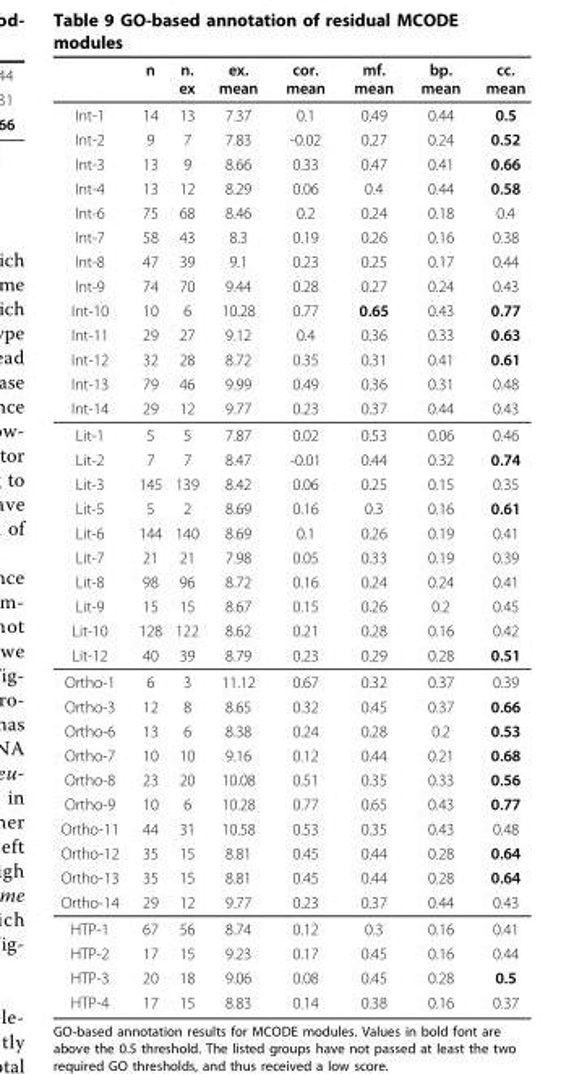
<table><thead><tr><td></td><td>n</td><td>n. ex</td><td>ex. mean</td><td>cor. mean</td><td>mf. mean</td><td>bp. mean</td><td>cc. mean</td></tr></thead><tbody><tr><td>Int-1</td><td>14</td><td>13</td><td>7.37</td><td>0.1</td><td>0.49</td><td>0.44</td><td>0.5</td></tr><tr><td>Int-2</td><td>9</td><td>7</td><td>7.83</td><td>-0.02</td><td>0.27</td><td>0.24</td><td>0.52</td></tr><tr><td>Int-3</td><td>13</td><td>9</td><td>8.66</td><td>0.33</td><td>0.47</td><td>0.41</td><td>0.66</td></tr><tr><td>Int-4</td><td>13</td><td>12</td><td>8.29</td><td>0.06</td><td>0.4</td><td>0.44</td><td>0.58</td></tr><tr><td>Int-6</td><td>75</td><td>68</td><td>8.46</td><td>0.2</td><td>0.24</td><td>0.18</td><td>0.4</td></tr><tr><td>Int-7</td><td>58</td><td>43</td><td>8.3</td><td>0.19</td><td>0.26</td><td>0.16</td><td>0.38</td></tr><tr><td>Int-8</td><td>47</td><td>39</td><td>9.1</td><td>0.23</td><td>0.25</td><td>0.17</td><td>0.44</td></tr><tr><td>Int-9</td><td>74</td><td>70</td><td>9.44</td><td>0.28</td><td>0.27</td><td>0.24</td><td>0.43</td></tr><tr><td>Int-10</td><td>10</td><td>6</td><td>10.28</td><td>0.77</td><td>0.65</td><td>0.43</td><td>0.77</td></tr><tr><td>Int-11</td><td>29</td><td>27</td><td>9.12</td><td>0.4</td><td>0.36</td><td>0.33</td><td>0.63</td></tr><tr><td>Int-12</td><td>32</td><td>28</td><td>8.72</td><td>0.35</td><td>0.31</td><td>0.41</td><td>0.61</td></tr><tr><td>Int-13</td><td>79</td><td>46</td><td>9.99</td><td>0.49</td><td>0.36</td><td>0.31</td><td>0.48</td></tr><tr><td>Int-14</td><td>29</td><td>12</td><td>9.77</td><td>0.23</td><td>0.37</td><td>0.44</td><td>0.43</td></tr><tr><td>Lit-1</td><td>5</td><td>5</td><td>7.87</td><td>0.02</td><td>0.53</td><td>0.06</td><td>0.46</td></tr><tr><td>Lit-2</td><td>7</td><td>7</td><td>8.47</td><td>-0.01</td><td>0.44</td><td>0.32</td><td>0.74</td></tr><tr><td>Lit-3</td><td>145</td><td>139</td><td>8.42</td><td>0.06</td><td>0.25</td><td>0.15</td><td>0.35</td></tr><tr><td>Lit-5</td><td>5</td><td>2</td><td>8.69</td><td>0.16</td><td>0.3</td><td>0.16</td><td>0.61</td></tr><tr><td>Lit-6</td><td>144</td><td>140</td><td>8.69</td><td>0.1</td><td>0.26</td><td>0.19</td><td>0.41</td></tr><tr><td>Lit-7</td><td>21</td><td>21</td><td>7.98</td><td>0.05</td><td>0.33</td><td>0.19</td><td>0.39</td></tr><tr><td>Lit-8</td><td>98</td><td>96</td><td>8.72</td><td>0.16</td><td>0.24</td><td>0.24</td><td>0.41</td></tr><tr><td>Lit-9</td><td>15</td><td>15</td><td>8.67</td><td>0.15</td><td>0.26</td><td>0.2</td><td>0.45</td></tr><tr><td>Lit-10</td><td>128</td><td>122</td><td>8.62</td><td>0.21</td><td>0.28</td><td>0.16</td><td>0.42</td></tr><tr><td>Lit-12</td><td>40</td><td>39</td><td>8.79</td><td>0.23</td><td>0.29</td><td>0.28</td><td>0.51</td></tr><tr><td>Ortho-1</td><td>6</td><td>3</td><td>11.12</td><td>0.67</td><td>0.32</td><td>0.37</td><td>0.39</td></tr><tr><td>Ortho-3</td><td>12</td><td>8</td><td>8.65</td><td>0.32</td><td>0.45</td><td>0.37</td><td>0.66</td></tr><tr><td>Ortho-6</td><td>13</td><td>6</td><td>8.38</td><td>0.24</td><td>0.28</td><td>0.2</td><td>0.53</td></tr><tr><td>Ortho-7</td><td>10</td><td>10</td><td>9.16</td><td>0.12</td><td>0.44</td><td>0.21</td><td>0.68</td></tr><tr><td>Ortho-8</td><td>23</td><td>20</td><td>10.08</td><td>0.51</td><td>0.35</td><td>0.33</td><td>0.56</td></tr><tr><td>Ortho-9</td><td>10</td><td>6</td><td>10.28</td><td>0.77</td><td>0.65</td><td>0.43</td><td>0.77</td></tr><tr><td>Ortho-11</td><td>44</td><td>31</td><td>10.58</td><td>0.53</td><td>0.35</td><td>0.43</td><td>0.48</td></tr><tr><td>Ortho-12</td><td>35</td><td>15</td><td>8.81</td><td>0.45</td><td>0.44</td><td>0.28</td><td>0.64</td></tr><tr><td>Ortho-13</td><td>35</td><td>15</td><td>8.81</td><td>0.45</td><td>0.44</td><td>0.28</td><td>0.64</td></tr><tr><td>Ortho-14</td><td>29</td><td>12</td><td>9.77</td><td>0.23</td><td>0.37</td><td>0.44</td><td>0.43</td></tr><tr><td>HTP-1</td><td>67</td><td>56</td><td>8.74</td><td>0.12</td><td>0.3</td><td>0.16</td><td>0.41</td></tr><tr><td>HTP-2</td><td>17</td><td>15</td><td>9.23</td><td>0.17</td><td>0.45</td><td>0.16</td><td>0.44</td></tr><tr><td>HTP-3</td><td>20</td><td>18</td><td>9.06</td><td>0.08</td><td>0.45</td><td>0.28</td><td>0.5</td></tr><tr><td>HTP-4</td><td>17</td><td>15</td><td>8.83</td><td>0.14</td><td>0.38</td><td>0.16</td><td>0.37</td></tr></tbody></table>